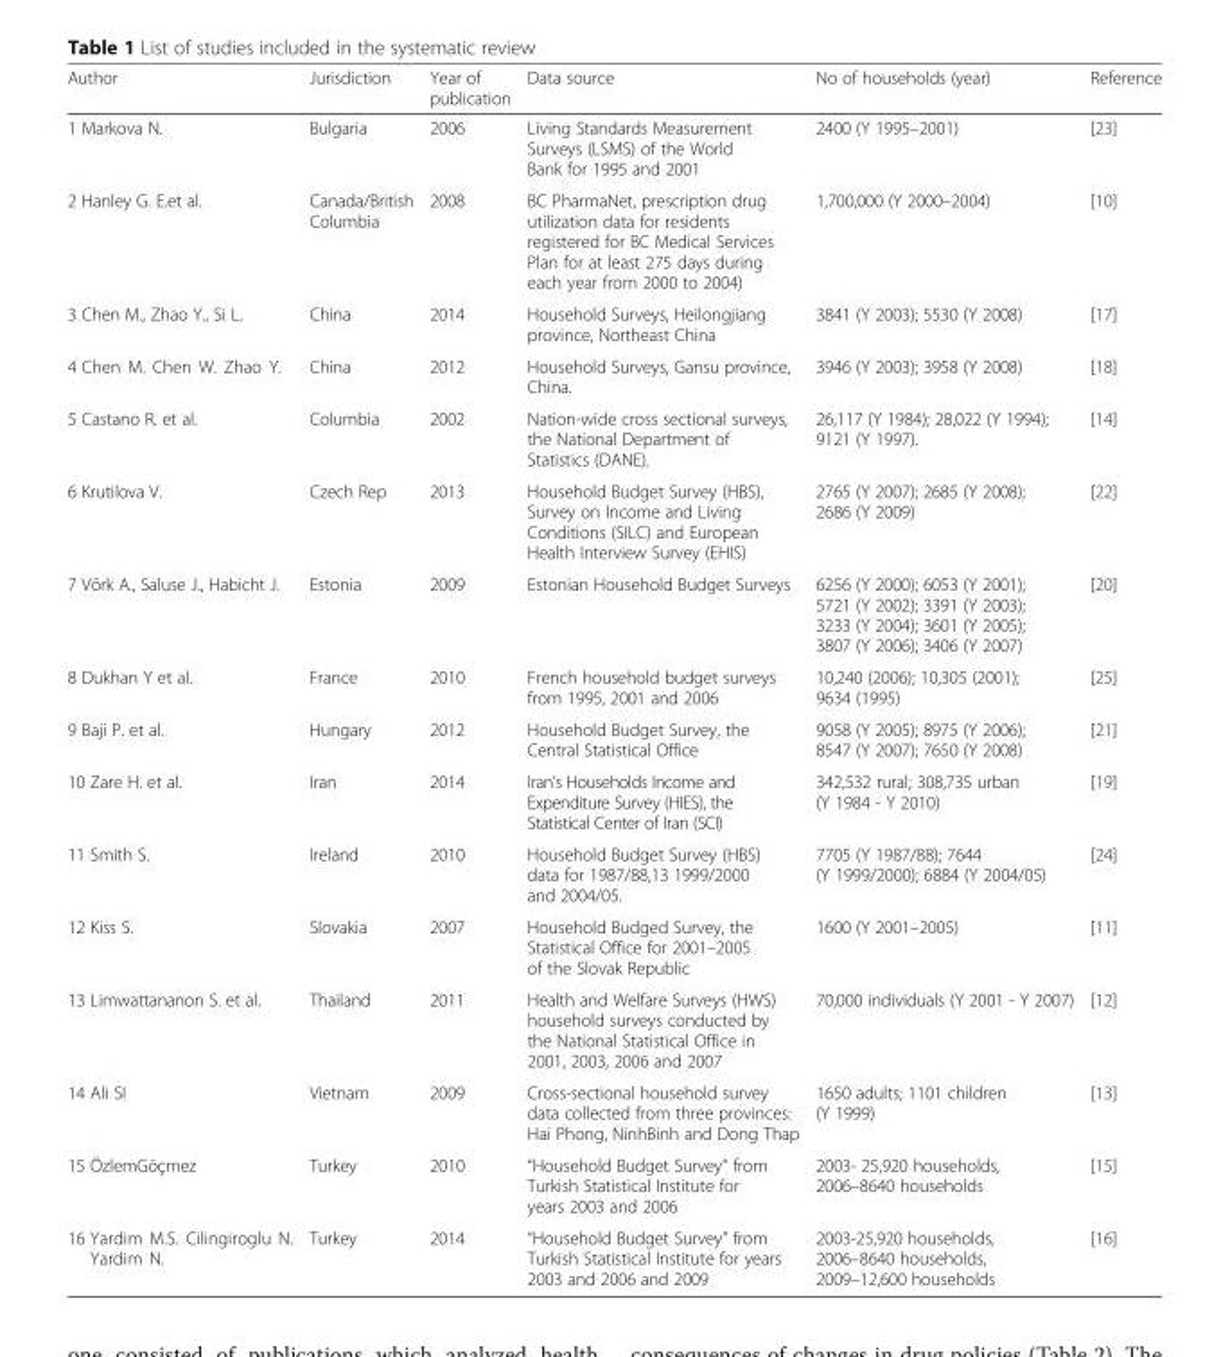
<table><thead><tr><td>Author</td><td>Jurisdiction</td><td>Year of publication</td><td>Data source</td><td>No of households (year)</td><td>Reference</td></tr></thead><tbody><tr><td>1 Markova N.</td><td>Bulgaria</td><td>2006</td><td>Living Standards Measurement Surveys (LSMS) of the World Bank for 1995 and 2001</td><td>2400 (Y 1995–2001)</td><td>[23]</td></tr><tr><td>2 Hanley G. E.et al.</td><td>Canada/British Columbia</td><td>2008</td><td>BC PharmaNet, prescription drug utilization data for residents registered for BC Medical Services Plan for at least 275 days during each year from 2000 to 2004)</td><td>1,700,000 (Y 2000–2004)</td><td>[10]</td></tr><tr><td>3 Chen M., Zhao Y., Si L.</td><td>China</td><td>2014</td><td>Household Surveys, Heilongjiang province, Northeast China</td><td>3841 (Y 2003); 5530 (Y 2008)</td><td>[17]</td></tr><tr><td>4 Chen M. Chen W. Zhao Y.</td><td>China</td><td>2012</td><td>Household Surveys, Gansu province, China.</td><td>3946 (Y 2003); 3958 (Y 2008)</td><td>[18]</td></tr><tr><td>5 Castano R. et al.</td><td>Columbia</td><td>2002</td><td>Nation-wide cross sectional surveys, the National Department of Statistics (DANE).</td><td>26,117 (Y 1984); 28,022 (Y 1994); 9121 (Y 1997).</td><td>[14]</td></tr><tr><td>6 Krutilova V.</td><td>Czech Rep</td><td>2013</td><td>Household Budget Survey (HBS), Survey on Income and Living Conditions (SILC) and European Health Interview Survey (EHIS)</td><td>2765 (Y 2007); 2685 (Y 2008); 2686 (Y 2009)</td><td>[22]</td></tr><tr><td>7 Võrk A., Saluse J., Habicht J.</td><td>Estonia</td><td>2009</td><td>Estonian Household Budget Surveys</td><td>6256 (Y 2000); 6053 (Y 2001); 5721 (Y 2002); 3391 (Y 2003); 3233 (Y 2004); 3601 (Y 2005); 3807 (Y 2006); 3406 (Y 2007)</td><td>[20]</td></tr><tr><td>8 Dukhan Y et al.</td><td>France</td><td>2010</td><td>French household budget surveys from 1995, 2001 and 2006</td><td>10,240 (2006); 10,305 (2001); 9634 (1995)</td><td>[25]</td></tr><tr><td>9 Baji P. et al.</td><td>Hungary</td><td>2012</td><td>Household Budget Survey, the Central Statistical Office</td><td>9058 (Y 2005); 8975 (Y 2006); 8547 (Y 2007); 7650 (Y 2008)</td><td>[21]</td></tr><tr><td>10 Zare H. et al.</td><td>Iran</td><td>2014</td><td>Iran’s Households Income and Expenditure Survey (HIES), the Statistical Center of Iran (SCI)</td><td>342,532 rural; 308,735 urban (Y 1984 - Y 2010)</td><td>[19]</td></tr><tr><td>11 Smith S.</td><td>Ireland</td><td>2010</td><td>Household Budget Survey (HBS) data for 1987/88,13 1999/2000 and 2004/05.</td><td>7705 (Y 1987/88); 7644 (Y 1999/2000); 6884 (Y 2004/05)</td><td>[24]</td></tr><tr><td>12 Kiss S.</td><td>Slovakia</td><td>2007</td><td>Household Budged Survey, the Statistical Office for 2001–2005 of the Slovak Republic</td><td>1600 (Y 2001–2005)</td><td>[11]</td></tr><tr><td>13 Limwattananon S. et al.</td><td>Thailand</td><td>2011</td><td>Health and Welfare Surveys (HWS) household surveys conducted by the National Statistical Office in 2001, 2003, 2006 and 2007</td><td>70,000 individuals (Y 2001 - Y 2007)</td><td>[12]</td></tr><tr><td>14 Ali SI</td><td>Vietnam</td><td>2009</td><td>Cross-sectional household survey data collected from three provinces: Hai Phong, NinhBinh and Dong Thap</td><td>1650 adults; 1101 children (Y 1999)</td><td>[13]</td></tr><tr><td>15 ÖzlemGöçmez</td><td>Turkey</td><td>2010</td><td>“Household Budget Survey” from Turkish Statistical Institute for years 2003 and 2006</td><td>2003- 25,920 households, 2006–8640 households</td><td>[15]</td></tr><tr><td>16 Yardim M.S. Cilingiroglu N. Yardim N.</td><td>Turkey</td><td>2014</td><td>“Household Budget Survey” from Turkish Statistical Institute for years 2003 and 2006 and 2009</td><td>2003-25,920 households, 2006–8640 households, 2009–12,600 households</td><td>[16]</td></tr></tbody></table>